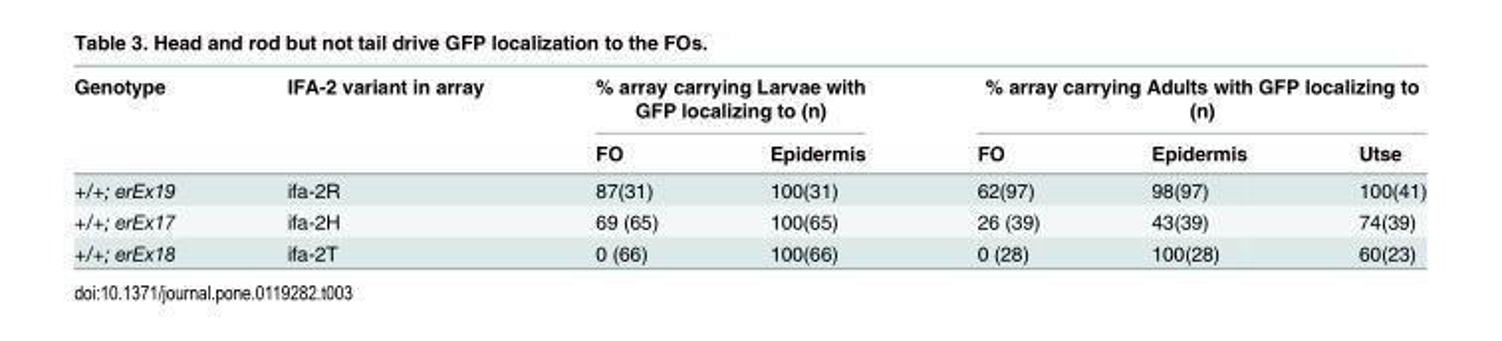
<table><thead><tr><td rowspan="2">Genotype</td><td rowspan="2">IFA-2 variant in array</td><td colspan="2">% array carrying Larvae with GFP localizing to (n)</td><td colspan="3">% array carrying Adults with GFP localizing to (n)</td></tr><tr><td>FO</td><td>Epidermis</td><td>FO</td><td>Epidermis</td><td>Utse</td></tr></thead><tbody><tr><td>+/+; erEx19</td><td>ifa-2R</td><td>87(31)</td><td>100(31)</td><td>62(97)</td><td>98(97)</td><td>100(41)</td></tr><tr><td>+/+; erEx17</td><td>ifa-2H</td><td>69 (65)</td><td>100(65)</td><td>26 (39)</td><td>43(39)</td><td>74(39)</td></tr><tr><td>+/+; erEx18</td><td>ifa-2T</td><td>0 (66)</td><td>100(66)</td><td>0 (28)</td><td>100(28)</td><td>60(23)</td></tr></tbody></table>